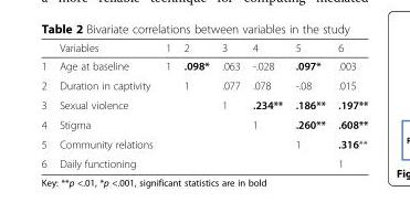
<table><thead><tr><td></td><td>Variables</td><td>1</td><td>2</td><td>3</td><td>4</td><td>5</td><td>6</td></tr></thead><tbody><tr><td>1</td><td>Age at baseline</td><td>1</td><td>.098*</td><td>.063</td><td>-.028</td><td>.097*</td><td>.003</td></tr><tr><td>2</td><td>Duration in captivity</td><td></td><td>1</td><td>.077</td><td>.078</td><td>-.08</td><td>.015</td></tr><tr><td>3</td><td>Sexual violence</td><td></td><td></td><td>1</td><td>.234**</td><td>.186**</td><td>.197**</td></tr><tr><td>4</td><td>Stigma</td><td></td><td></td><td></td><td>1</td><td>.260**</td><td>.608**</td></tr><tr><td>5</td><td>Community relations</td><td></td><td></td><td></td><td></td><td>1</td><td>.316**</td></tr><tr><td>6</td><td>Daily functioning</td><td></td><td></td><td></td><td></td><td></td><td>1</td></tr></tbody></table>